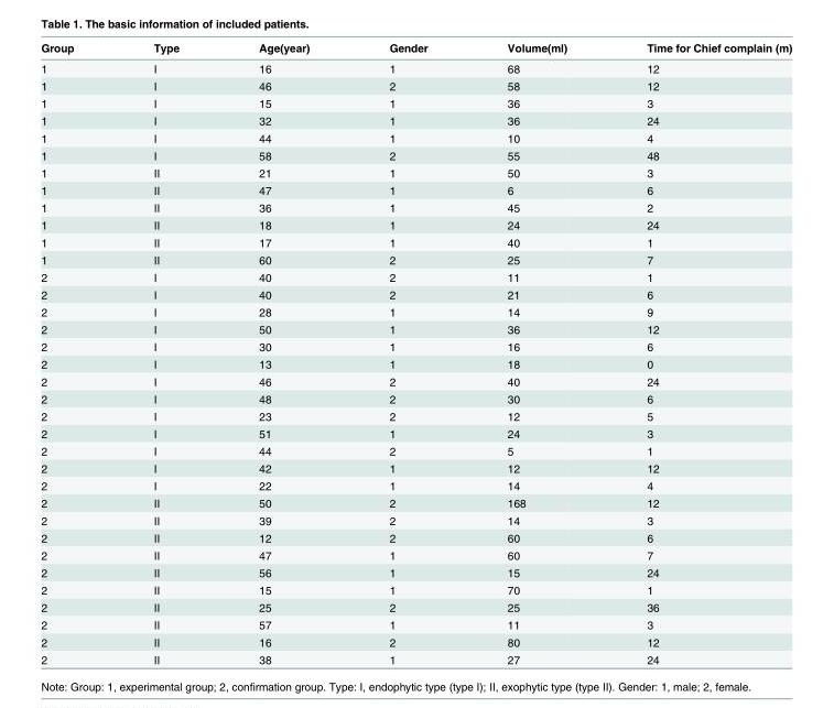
<table><thead><tr><td>Group</td><td>Type</td><td>Age(year)</td><td>Gender</td><td>Volume(ml)</td><td>Time for Chief complain (m)</td></tr></thead><tbody><tr><td>1</td><td>I</td><td>16</td><td>1</td><td>68</td><td>12</td></tr><tr><td>1</td><td>I</td><td>46</td><td>2</td><td>58</td><td>12</td></tr><tr><td>1</td><td>I</td><td>15</td><td>1</td><td>36</td><td>3</td></tr><tr><td>1</td><td>I</td><td>32</td><td>1</td><td>36</td><td>24</td></tr><tr><td>1</td><td>I</td><td>44</td><td>1</td><td>10</td><td>4</td></tr><tr><td>1</td><td>I</td><td>58</td><td>2</td><td>55</td><td>48</td></tr><tr><td>1</td><td>II</td><td>21</td><td>1</td><td>50</td><td>3</td></tr><tr><td>1</td><td>II</td><td>47</td><td>1</td><td>6</td><td>6</td></tr><tr><td>1</td><td>II</td><td>36</td><td>1</td><td>45</td><td>2</td></tr><tr><td>1</td><td>II</td><td>18</td><td>1</td><td>24</td><td>24</td></tr><tr><td>1</td><td>II</td><td>17</td><td>1</td><td>40</td><td>1</td></tr><tr><td>1</td><td>II</td><td>60</td><td>2</td><td>25</td><td>7</td></tr><tr><td>2</td><td>I</td><td>40</td><td>2</td><td>11</td><td>1</td></tr><tr><td>2</td><td>I</td><td>40</td><td>2</td><td>21</td><td>6</td></tr><tr><td>2</td><td>I</td><td>28</td><td>1</td><td>14</td><td>9</td></tr><tr><td>2</td><td>I</td><td>50</td><td>1</td><td>36</td><td>12</td></tr><tr><td>2</td><td>I</td><td>30</td><td>1</td><td>16</td><td>6</td></tr><tr><td>2</td><td>I</td><td>13</td><td>1</td><td>18</td><td>0</td></tr><tr><td>2</td><td>I</td><td>46</td><td>2</td><td>40</td><td>24</td></tr><tr><td>2</td><td>I</td><td>48</td><td>2</td><td>30</td><td>6</td></tr><tr><td>2</td><td>I</td><td>23</td><td>2</td><td>12</td><td>5</td></tr><tr><td>2</td><td>I</td><td>51</td><td>1</td><td>24</td><td>3</td></tr><tr><td>2</td><td>I</td><td>44</td><td>2</td><td>5</td><td>1</td></tr><tr><td>2</td><td>I</td><td>42</td><td>1</td><td>12</td><td>12</td></tr><tr><td>2</td><td>I</td><td>22</td><td>1</td><td>14</td><td>4</td></tr><tr><td>2</td><td>II</td><td>50</td><td>2</td><td>168</td><td>12</td></tr><tr><td>2</td><td>II</td><td>39</td><td>2</td><td>14</td><td>3</td></tr><tr><td>2</td><td>II</td><td>12</td><td>2</td><td>60</td><td>6</td></tr><tr><td>2</td><td>II</td><td>47</td><td>1</td><td>60</td><td>7</td></tr><tr><td>2</td><td>II</td><td>56</td><td>1</td><td>15</td><td>24</td></tr><tr><td>2</td><td>II</td><td>15</td><td>1</td><td>70</td><td>1</td></tr><tr><td>2</td><td>II</td><td>25</td><td>2</td><td>25</td><td>36</td></tr><tr><td>2</td><td>II</td><td>57</td><td>1</td><td>11</td><td>3</td></tr><tr><td>2</td><td>II</td><td>16</td><td>2</td><td>80</td><td>12</td></tr><tr><td>2</td><td>II</td><td>38</td><td>1</td><td>27</td><td>24</td></tr></tbody></table>